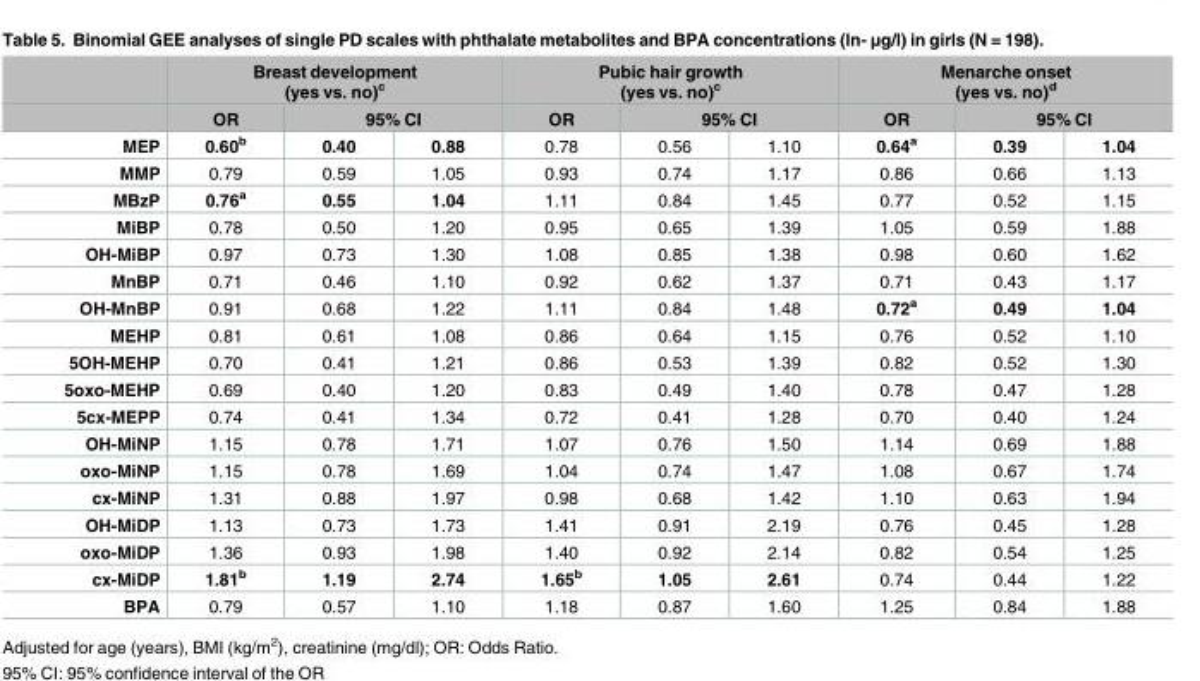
<table><thead><tr><td rowspan="3">MEP</td><td colspan="3">Breast development (yes vs. no)<sup>c</sup></td><td colspan="3">Pubic hair growth (yes vs. no)<sup>c</sup></td><td colspan="3">Menarche onset (yes vs. no)<sup>d</sup></td></tr><tr><td rowspan="2">OR 0.60<sup>b</sup></td><td colspan="2">95% CI</td><td rowspan="2">OR 0.78</td><td colspan="2">95% CI</td><td rowspan="2">OR 0.64<sup>a</sup></td><td colspan="2">95% CI</td></tr><tr><td>0.40</td><td>0.88</td><td>0.56</td><td>1.10</td><td>0.39</td><td>1.04</td></tr></thead><tbody><tr><td>MMP</td><td>0.79</td><td>0.59</td><td>1.05</td><td>0.93</td><td>0.74</td><td>1.17</td><td>0.86</td><td>0.66</td><td>1.13</td></tr><tr><td>MBzP</td><td>0.76<sup>a</sup></td><td>0.55</td><td>1.04</td><td>1.11</td><td>0.84</td><td>1.45</td><td>0.77</td><td>0.52</td><td>1.15</td></tr><tr><td>MiBP</td><td>0.78</td><td>0.50</td><td>1.20</td><td>0.95</td><td>0.65</td><td>1.39</td><td>1.05</td><td>0.59</td><td>1.88</td></tr><tr><td>OH-MiBP</td><td>0.97</td><td>0.73</td><td>1.30</td><td>1.08</td><td>0.85</td><td>1.38</td><td>0.98</td><td>0.60</td><td>1.62</td></tr><tr><td>MnBP</td><td>0.71</td><td>0.46</td><td>1.10</td><td>0.92</td><td>0.62</td><td>1.37</td><td>0.71</td><td>0.43</td><td>1.17</td></tr><tr><td>OH-MnBP</td><td>0.91</td><td>0.68</td><td>1.22</td><td>1.11</td><td>0.84</td><td>1.48</td><td>0.72<sup>a</sup></td><td>0.49</td><td>1.04</td></tr><tr><td>MEHP</td><td>0.81</td><td>0.61</td><td>1.08</td><td>0.86</td><td>0.64</td><td>1.15</td><td>0.76</td><td>0.52</td><td>1.10</td></tr><tr><td>5OH-MEHP</td><td>0.70</td><td>0.41</td><td>1.21</td><td>0.86</td><td>0.53</td><td>1.39</td><td>0.82</td><td>0.52</td><td>1.30</td></tr><tr><td>5oxo-MEHP</td><td>0.69</td><td>0.40</td><td>1.20</td><td>0.83</td><td>0.49</td><td>1.40</td><td>0.78</td><td>0.47</td><td>1.28</td></tr><tr><td>5cx-MEPP</td><td>0.74</td><td>0.41</td><td>1.34</td><td>0.72</td><td>0.41</td><td>1.28</td><td>0.70</td><td>0.40</td><td>1.24</td></tr><tr><td>OH-MiNP</td><td>1.15</td><td>0.78</td><td>1.71</td><td>1.07</td><td>0.76</td><td>1.50</td><td>1.14</td><td>0.69</td><td>1.88</td></tr><tr><td>oxo-MiNP</td><td>1.15</td><td>0.78</td><td>1.69</td><td>1.04</td><td>0.74</td><td>1.47</td><td>1.08</td><td>0.67</td><td>1.74</td></tr><tr><td>cx-MiNP</td><td>1.31</td><td>0.88</td><td>1.97</td><td>0.98</td><td>0.68</td><td>1.42</td><td>1.10</td><td>0.63</td><td>1.94</td></tr><tr><td>OH-MiDP</td><td>1.13</td><td>0.73</td><td>1.73</td><td>1.41</td><td>0.91</td><td>2.19</td><td>0.76</td><td>0.45</td><td>1.28</td></tr><tr><td>oxo-MiDP</td><td>1.36</td><td>0.93</td><td>1.98</td><td>1.40</td><td>0.92</td><td>2.14</td><td>0.82</td><td>0.54</td><td>1.25</td></tr><tr><td>cx-MiDP</td><td>1.81<sup>b</sup></td><td>1.19</td><td>2.74</td><td>1.65<sup>b</sup></td><td>1.05</td><td>2.61</td><td>0.74</td><td>0.44</td><td>1.22</td></tr><tr><td>BPA</td><td>0.79</td><td>0.57</td><td>1.10</td><td>1.18</td><td>0.87</td><td>1.60</td><td>1.25</td><td>0.84</td><td>1.88</td></tr></tbody></table>